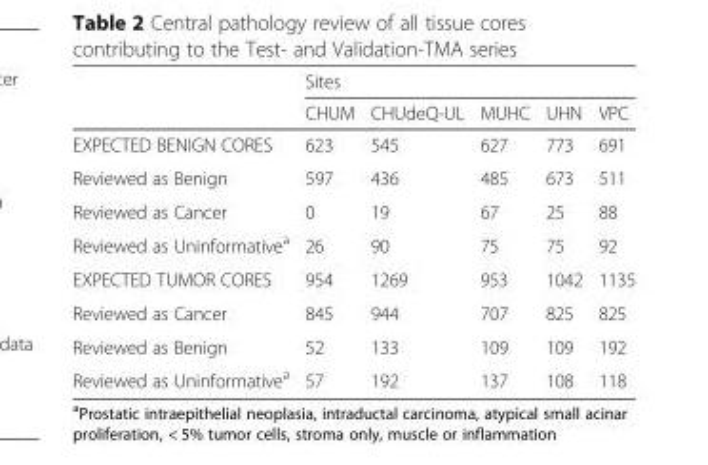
<table><thead><tr><td rowspan="2"></td><td colspan="5">Sites</td></tr><tr><td>CHUM</td><td>CHUdeQ-UL</td><td>MUHC</td><td>UHN</td><td>VPC</td></tr></thead><tbody><tr><td>EXPECTED BENIGN CORES</td><td>623</td><td>545</td><td>627</td><td>773</td><td>691</td></tr><tr><td>Reviewed as Benign</td><td>597</td><td>436</td><td>485</td><td>673</td><td>511</td></tr><tr><td>Reviewed as Cancer</td><td>0</td><td>19</td><td>67</td><td>25</td><td>88</td></tr><tr><td>Reviewed as Uninformative<sup>a</sup></td><td>26</td><td>90</td><td>75</td><td>75</td><td>92</td></tr><tr><td>EXPECTED TUMOR CORES</td><td>954</td><td>1269</td><td>953</td><td>1042</td><td>1135</td></tr><tr><td>Reviewed as Cancer</td><td>845</td><td>944</td><td>707</td><td>825</td><td>825</td></tr><tr><td>Reviewed as Benign</td><td>52</td><td>133</td><td>109</td><td>109</td><td>192</td></tr><tr><td>Reviewed as Uninformative<sup>a</sup></td><td>57</td><td>192</td><td>137</td><td>108</td><td>118</td></tr></tbody></table>